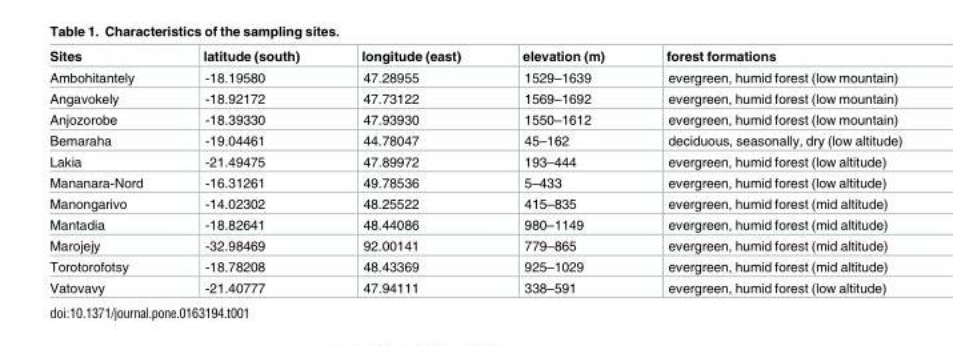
<table><thead><tr><td>Sites</td><td>latitude (south)</td><td>longitude (east)</td><td>elevation (m)</td><td>forest formations</td></tr></thead><tbody><tr><td>Ambohitantely</td><td>-18.19580</td><td>47.28955</td><td>1529–1639</td><td>evergreen, humid forest (low mountain)</td></tr><tr><td>Angavokely</td><td>-18.92172</td><td>47.73122</td><td>1569–1692</td><td>evergreen, humid forest (low mountain)</td></tr><tr><td>Anjozorobe</td><td>-18.39330</td><td>47.93930</td><td>1550–1612</td><td>evergreen, humid forest (low mountain)</td></tr><tr><td>Bemaraha</td><td>-19.04461</td><td>44.78047</td><td>45–162</td><td>deciduous, seasonally, dry (low altitude)</td></tr><tr><td>Lakia</td><td>-21.49475</td><td>47.89972</td><td>193–444</td><td>evergreen, humid forest (low altitude)</td></tr><tr><td>Mananara-Nord</td><td>-16.31261</td><td>49.78536</td><td>5–433</td><td>evergreen, humid forest (low altitude)</td></tr><tr><td>Manongarivo</td><td>-14.02302</td><td>48.25522</td><td>415–835</td><td>evergreen, humid forest (mid altitude)</td></tr><tr><td>Mantadia</td><td>-18.82641</td><td>48.44086</td><td>980–1149</td><td>evergreen, humid forest (mid altitude)</td></tr><tr><td>Marojejy</td><td>-32.98469</td><td>92.00141</td><td>779–865</td><td>evergreen, humid forest (mid altitude)</td></tr><tr><td>Torotorofotsy</td><td>-18.78208</td><td>48.43369</td><td>925–1029</td><td>evergreen, humid forest (mid altitude)</td></tr><tr><td>Vatovavy</td><td>-21.40777</td><td>47.94111</td><td>338–591</td><td>evergreen, humid forest (low altitude)</td></tr></tbody></table>